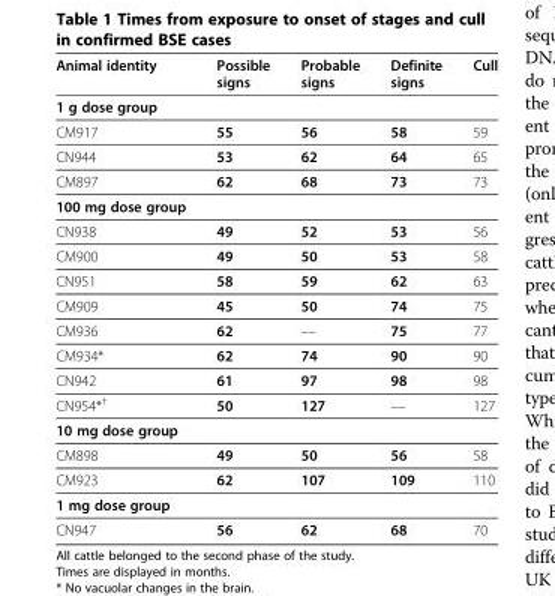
<table><thead><tr><td>Animal identity</td><td>Possible signs</td><td>Probable signs</td><td>Definite signs</td><td>Cull</td></tr></thead><tbody><tr><td colspan="5">1 g dose group</td></tr><tr><td>CM917</td><td>55</td><td>56</td><td>58</td><td>59</td></tr><tr><td>CN944</td><td>53</td><td>62</td><td>64</td><td>65</td></tr><tr><td>CM897</td><td>62</td><td>68</td><td>73</td><td>73</td></tr><tr><td colspan="5">100 mg dose group</td></tr><tr><td>CN938</td><td>49</td><td>52</td><td>53</td><td>56</td></tr><tr><td>CM900</td><td>49</td><td>50</td><td>53</td><td>58</td></tr><tr><td>CN951</td><td>58</td><td>59</td><td>62</td><td>63</td></tr><tr><td>CM909</td><td>45</td><td>50</td><td>74</td><td>75</td></tr><tr><td>CM936</td><td>62</td><td>––</td><td>75</td><td>77</td></tr><tr><td>CM934*</td><td>62</td><td>74</td><td>90</td><td>90</td></tr><tr><td>CN942</td><td>61</td><td>97</td><td>98</td><td>98</td></tr><tr><td>CN954*<sup>†</sup></td><td>50</td><td>127</td><td>––</td><td>127</td></tr><tr><td colspan="5">10 mg dose group</td></tr><tr><td>CM898</td><td>49</td><td>50</td><td>56</td><td>58</td></tr><tr><td>CM923</td><td>62</td><td>107</td><td>109</td><td>110</td></tr><tr><td colspan="5">1 mg dose group</td></tr><tr><td>CN947</td><td>56</td><td>62</td><td>68</td><td>70</td></tr></tbody></table>